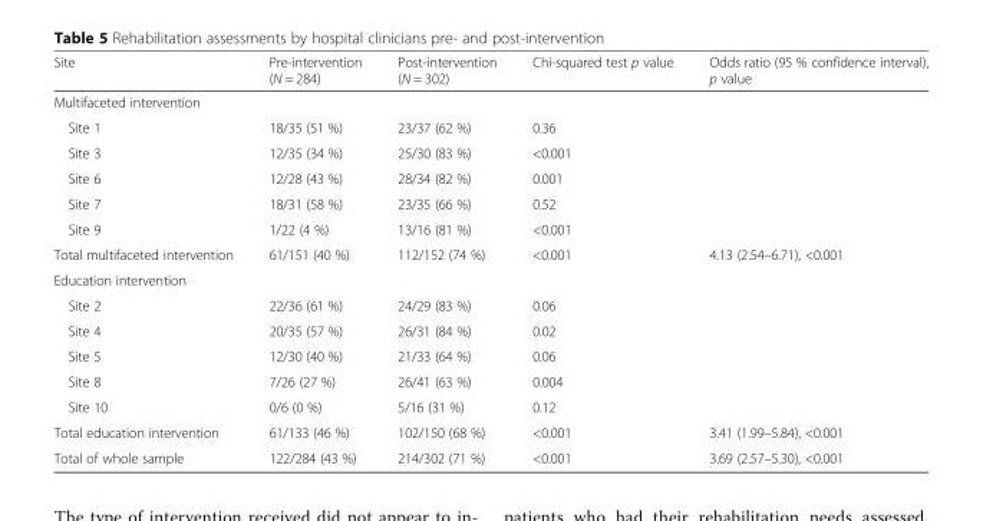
<table><thead><tr><td>Site</td><td>Pre-intervention (N = 284)</td><td>Post-intervention (N = 302)</td><td>Chi-squared test p value</td><td>Odds ratio (95 % confidence interval), p value</td></tr></thead><tbody><tr><td colspan="5">Multifaceted intervention</td></tr><tr><td>Site 1</td><td>18/35 (51 %)</td><td>23/37 (62 %)</td><td>0.36</td><td></td></tr><tr><td>Site 3</td><td>12/35 (34 %)</td><td>25/30 (83 %)</td><td>&lt;0.001</td><td></td></tr><tr><td>Site 6</td><td>12/28 (43 %)</td><td>28/34 (82 %)</td><td>0.001</td><td></td></tr><tr><td>Site 7</td><td>18/31 (58 %)</td><td>23/35 (66 %)</td><td>0.52</td><td></td></tr><tr><td>Site 9</td><td>1/22 (4 %)</td><td>13/16 (81 %)</td><td>&lt;0.001</td><td></td></tr><tr><td>Total multifaceted intervention</td><td>61/151 (40 %)</td><td>112/152 (74 %)</td><td>&lt;0.001</td><td>4.13 (2.54–6.71), &lt;0.001</td></tr><tr><td colspan="5">Education intervention</td></tr><tr><td>Site 2</td><td>22/36 (61 %)</td><td>24/29 (83 %)</td><td>0.06</td><td></td></tr><tr><td>Site 4</td><td>20/35 (57 %)</td><td>26/31 (84 %)</td><td>0.02</td><td></td></tr><tr><td>Site 5</td><td>12/30 (40 %)</td><td>21/33 (64 %)</td><td>0.06</td><td></td></tr><tr><td>Site 8</td><td>7/26 (27 %)</td><td>26/41 (63 %)</td><td>0.004</td><td></td></tr><tr><td>Site 10</td><td>0/6 (0 %)</td><td>5/16 (31 %)</td><td>0.12</td><td></td></tr><tr><td>Total education intervention</td><td>61/133 (46 %)</td><td>102/150 (68 %)</td><td>&lt;0.001</td><td>3.41 (1.99–5.84), &lt;0.001</td></tr><tr><td>Total of whole sample</td><td>122/284 (43 %)</td><td>214/302 (71 %)</td><td>&lt;0.001</td><td>3.69 (2.57–5.30), &lt;0.001</td></tr></tbody></table>